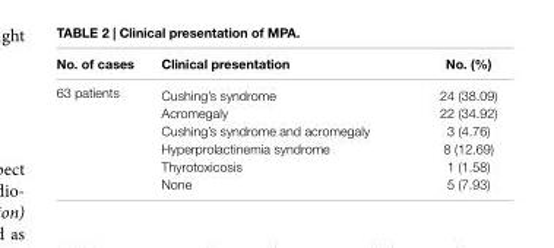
<table><thead><tr><td>No. of cases</td><td>Clinical presentation</td><td>No. (%)</td></tr></thead><tbody><tr><td rowspan="6">63 patients</td><td>Cushing’s syndrome</td><td>24 (38.09)</td></tr><tr><td>Acromegaly</td><td>22 (34.92)</td></tr><tr><td>Cushing’s syndrome and acromegaly</td><td>3 (4.76)</td></tr><tr><td>Hyperprolactinemia syndrome</td><td>8 (12.69)</td></tr><tr><td>Thyrotoxicosis</td><td>1 (1.58)</td></tr><tr><td>None</td><td>5 (7.93)</td></tr></tbody></table>